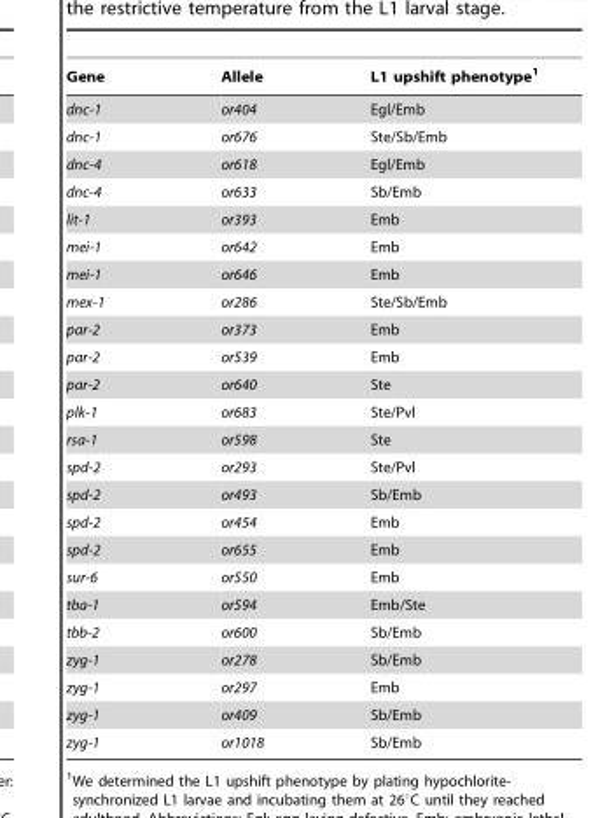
<table><thead><tr><td>Gene</td><td>Allele</td><td>L1 upshift phenotype<sup>1</sup></td></tr></thead><tbody><tr><td>dnc-1</td><td>or404</td><td>Egl/Emb</td></tr><tr><td>dnc-1</td><td>or676</td><td>Ste/Sb/Emb</td></tr><tr><td>dnc-4</td><td>or618</td><td>Egl/Emb</td></tr><tr><td>dnc-4</td><td>or633</td><td>Sb/Emb</td></tr><tr><td>lit-1</td><td>or393</td><td>Emb</td></tr><tr><td>mei-1</td><td>or642</td><td>Emb</td></tr><tr><td>mei-1</td><td>or646</td><td>Emb</td></tr><tr><td>mex-1</td><td>or286</td><td>Ste/Sb/Emb</td></tr><tr><td>par-2</td><td>or373</td><td>Emb</td></tr><tr><td>par-2</td><td>or539</td><td>Emb</td></tr><tr><td>par-2</td><td>or640</td><td>Ste</td></tr><tr><td>plk-1</td><td>or683</td><td>Ste/Pvl</td></tr><tr><td>rsa-1</td><td>or598</td><td>Ste</td></tr><tr><td>spd-2</td><td>or293</td><td>Ste/Pvl</td></tr><tr><td>spd-2</td><td>or493</td><td>Sb/Emb</td></tr><tr><td>spd-2</td><td>or454</td><td>Emb</td></tr><tr><td>spd-2</td><td>or655</td><td>Emb</td></tr><tr><td>sur-6</td><td>or550</td><td>Emb</td></tr><tr><td>tba-1</td><td>or594</td><td>Emb/Ste</td></tr><tr><td>tbb-2</td><td>or600</td><td>Sb/Emb</td></tr><tr><td>zyg-1</td><td>or278</td><td>Sb/Emb</td></tr><tr><td>zyg-1</td><td>or297</td><td>Emb</td></tr><tr><td>zyg-1</td><td>or409</td><td>Sb/Emb</td></tr><tr><td>zyg-1</td><td>or1018</td><td>Sb/Emb</td></tr></tbody></table>